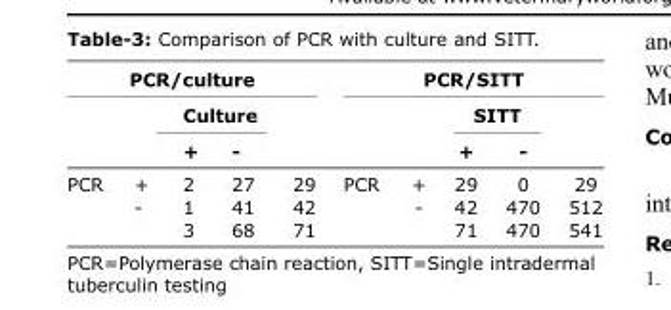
<table><thead><tr><td colspan="5">PCR/culture</td><td colspan="5">PCR/SITT</td></tr><tr><td rowspan="2"></td><td rowspan="2"></td><td colspan="2">Culture</td><td rowspan="2"></td><td rowspan="2"></td><td rowspan="2"></td><td colspan="2">SITT</td><td rowspan="2"></td></tr><tr><td>+</td><td>-</td><td>+</td><td>-</td></tr></thead><tbody><tr><td rowspan="3">PCR</td><td>+</td><td>2</td><td>27</td><td>29</td><td rowspan="3">PCR</td><td>+</td><td>29</td><td>0</td><td>29</td></tr><tr><td>-</td><td>1</td><td>41</td><td>42</td><td>-</td><td>42</td><td>470</td><td>512</td></tr><tr><td></td><td>3</td><td>68</td><td>71</td><td></td><td>71</td><td>470</td><td>541</td></tr></tbody></table>